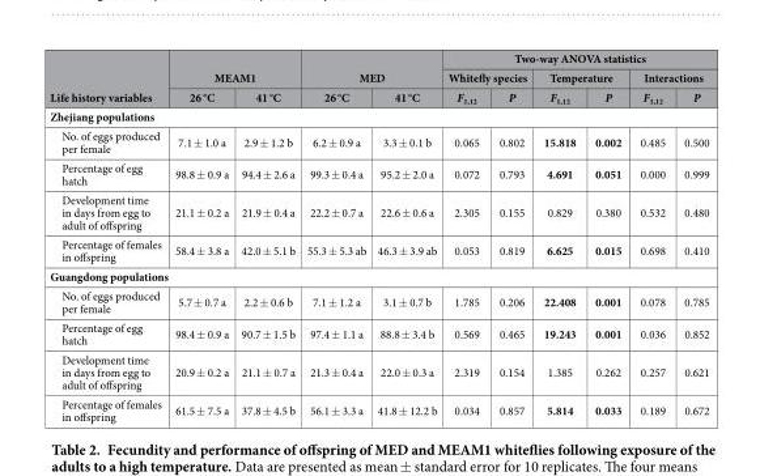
<table><thead><tr><td rowspan="3">Life history variables</td><td></td><td></td><td></td><td></td><td colspan="6">Two-way ANOVA statistics</td></tr><tr><td colspan="2">MEAM1</td><td colspan="2">MED</td><td colspan="2">Whitefly species</td><td colspan="2">Temperature</td><td colspan="2">Interactions</td></tr><tr><td>26 °C</td><td>41 °C</td><td>26 °C</td><td>41 °C</td><td>F<sub>1,12</sub></td><td>P</td><td>F<sub>1,12</sub></td><td>P</td><td>F<sub>1,12</sub></td><td>P</td></tr></thead><tbody><tr><td colspan="11">Zhejiang populations</td></tr><tr><td>No. of eggs produced per female</td><td>7.1 ± 1.0 a</td><td>2.9 ± 1.2 b</td><td>6.2 ± 0.9 a</td><td>3.3 ± 0.1 b</td><td>0.065</td><td>0.802</td><td>15.818</td><td>0.002</td><td>0.485</td><td>0.500</td></tr><tr><td>Percentage of egg hatch</td><td>98.8 ± 0.9 a</td><td>94.4 ± 2.6 a</td><td>99.3 ± 0.4 a</td><td>95.2 ± 2.0 a</td><td>0.072</td><td>0.793</td><td>4.691</td><td>0.051</td><td>0.000</td><td>0.999</td></tr><tr><td>Development time in days from egg to adult of offspring</td><td>21.1 ± 0.2 a</td><td>21.9 ± 0.4 a</td><td>22.2 ± 0.7 a</td><td>22.6 ± 0.6 a</td><td>2.305</td><td>0.155</td><td>0.829</td><td>0.380</td><td>0.532</td><td>0.480</td></tr><tr><td>Percentage of females in offspring</td><td>58.4 ± 3.8 a</td><td>42.0 ± 5.1 b</td><td>55.3 ± 5.3 ab</td><td>46.3 ± 3.9 ab</td><td>0.053</td><td>0.819</td><td>6.625</td><td>0.015</td><td>0.698</td><td>0.410</td></tr><tr><td colspan="11">Guangdong populations</td></tr><tr><td>No. of eggs produced per female</td><td>5.7 ± 0.7 a</td><td>2.2 ± 0.6 b</td><td>7.1 ± 1.2 a</td><td>3.1 ± 0.7 b</td><td>1.785</td><td>0.206</td><td>22.408</td><td>0.001</td><td>0.078</td><td>0.785</td></tr><tr><td>Percentage of egg hatch</td><td>98.4 ± 0.9 a</td><td>90.7 ± 1.5 b</td><td>97.4 ± 1.1 a</td><td>88.8 ± 3.4 b</td><td>0.569</td><td>0.465</td><td>19.243</td><td>0.001</td><td>0.036</td><td>0.852</td></tr><tr><td>Development time in days from egg to adult of offspring</td><td>20.9 ± 0.2 a</td><td>21.1 ± 0.7 a</td><td>21.3 ± 0.4 a</td><td>22.0 ± 0.3 a</td><td>2.319</td><td>0.154</td><td>1.385</td><td>0.262</td><td>0.257</td><td>0.621</td></tr><tr><td>Percentage of females in offspring</td><td>61.5 ± 7.5 a</td><td>37.8 ± 4.5 b</td><td>56.1 ± 3.3 a</td><td>41.8 ± 12.2 b</td><td>0.034</td><td>0.857</td><td>5.814</td><td>0.033</td><td>0.189</td><td>0.672</td></tr></tbody></table>